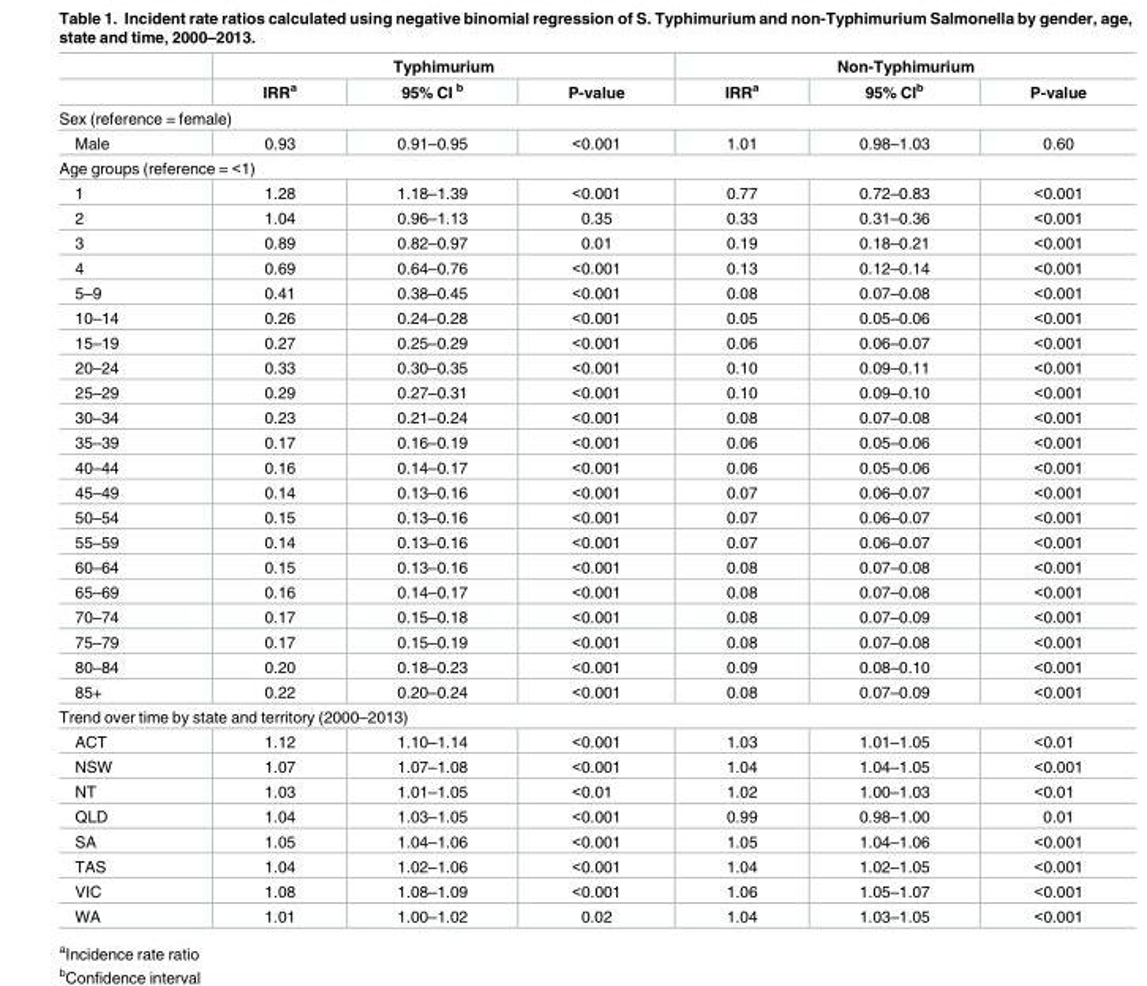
<table><thead><tr><td rowspan="2"></td><td colspan="3">Typhimurium</td><td colspan="3">Non-Typhimurium</td></tr><tr><td>IRR<sup>a</sup></td><td>95% CI <sup>b</sup></td><td>P-value</td><td>IRR<sup>a</sup></td><td>95% CI<sup>b</sup></td><td>P-value</td></tr></thead><tbody><tr><td colspan="7">Sex (reference = female)</td></tr><tr><td>Male</td><td>0.93</td><td>0.91–0.95</td><td>&lt;0.001</td><td>1.01</td><td>0.98–1.03</td><td>0.60</td></tr><tr><td colspan="7">Age groups (reference = &lt;1)</td></tr><tr><td>1</td><td>1.28</td><td>1.18–1.39</td><td>&lt;0.001</td><td>0.77</td><td>0.72–0.83</td><td>&lt;0.001</td></tr><tr><td>2</td><td>1.04</td><td>0.96–1.13</td><td>0.35</td><td>0.33</td><td>0.31–0.36</td><td>&lt;0.001</td></tr><tr><td>3</td><td>0.89</td><td>0.82–0.97</td><td>0.01</td><td>0.19</td><td>0.18–0.21</td><td>&lt;0.001</td></tr><tr><td>4</td><td>0.69</td><td>0.64–0.76</td><td>&lt;0.001</td><td>0.13</td><td>0.12–0.14</td><td>&lt;0.001</td></tr><tr><td>5–9</td><td>0.41</td><td>0.38–0.45</td><td>&lt;0.001</td><td>0.08</td><td>0.07–0.08</td><td>&lt;0.001</td></tr><tr><td>10–14</td><td>0.26</td><td>0.24–0.28</td><td>&lt;0.001</td><td>0.05</td><td>0.05–0.06</td><td>&lt;0.001</td></tr><tr><td>15–19</td><td>0.27</td><td>0.25–0.29</td><td>&lt;0.001</td><td>0.06</td><td>0.06–0.07</td><td>&lt;0.001</td></tr><tr><td>20–24</td><td>0.33</td><td>0.30–0.35</td><td>&lt;0.001</td><td>0.10</td><td>0.09–0.11</td><td>&lt;0.001</td></tr><tr><td>25–29</td><td>0.29</td><td>0.27–0.31</td><td>&lt;0.001</td><td>0.10</td><td>0.09–0.10</td><td>&lt;0.001</td></tr><tr><td>30–34</td><td>0.23</td><td>0.21–0.24</td><td>&lt;0.001</td><td>0.08</td><td>0.07–0.08</td><td>&lt;0.001</td></tr><tr><td>35–39</td><td>0.17</td><td>0.16–0.19</td><td>&lt;0.001</td><td>0.06</td><td>0.05–0.06</td><td>&lt;0.001</td></tr><tr><td>40–44</td><td>0.16</td><td>0.14–0.17</td><td>&lt;0.001</td><td>0.06</td><td>0.05–0.06</td><td>&lt;0.001</td></tr><tr><td>45–49</td><td>0.14</td><td>0.13–0.16</td><td>&lt;0.001</td><td>0.07</td><td>0.06–0.07</td><td>&lt;0.001</td></tr><tr><td>50–54</td><td>0.15</td><td>0.13–0.16</td><td>&lt;0.001</td><td>0.07</td><td>0.06–0.07</td><td>&lt;0.001</td></tr><tr><td>55–59</td><td>0.14</td><td>0.13–0.16</td><td>&lt;0.001</td><td>0.07</td><td>0.06–0.07</td><td>&lt;0.001</td></tr><tr><td>60–64</td><td>0.15</td><td>0.13–0.16</td><td>&lt;0.001</td><td>0.08</td><td>0.07–0.08</td><td>&lt;0.001</td></tr><tr><td>65–69</td><td>0.16</td><td>0.14–0.17</td><td>&lt;0.001</td><td>0.08</td><td>0.07–0.08</td><td>&lt;0.001</td></tr><tr><td>70–74</td><td>0.17</td><td>0.15–0.18</td><td>&lt;0.001</td><td>0.08</td><td>0.07–0.09</td><td>&lt;0.001</td></tr><tr><td>75–79</td><td>0.17</td><td>0.15–0.19</td><td>&lt;0.001</td><td>0.08</td><td>0.07–0.08</td><td>&lt;0.001</td></tr><tr><td>80–84</td><td>0.20</td><td>0.18–0.23</td><td>&lt;0.001</td><td>0.09</td><td>0.08–0.10</td><td>&lt;0.001</td></tr><tr><td>85+</td><td>0.22</td><td>0.20–0.24</td><td>&lt;0.001</td><td>0.08</td><td>0.07–0.09</td><td>&lt;0.001</td></tr><tr><td colspan="7">Trend over time by state and territory (2000–2013)</td></tr><tr><td>ACT</td><td>1.12</td><td>1.10–1.14</td><td>&lt;0.001</td><td>1.03</td><td>1.01–1.05</td><td>&lt;0.01</td></tr><tr><td>NSW</td><td>1.07</td><td>1.07–1.08</td><td>&lt;0.001</td><td>1.04</td><td>1.04–1.05</td><td>&lt;0.001</td></tr><tr><td>NT</td><td>1.03</td><td>1.01–1.05</td><td>&lt;0.01</td><td>1.02</td><td>1.00–1.03</td><td>&lt;0.01</td></tr><tr><td>QLD</td><td>1.04</td><td>1.03–1.05</td><td>&lt;0.001</td><td>0.99</td><td>0.98–1.00</td><td>0.01</td></tr><tr><td>SA</td><td>1.05</td><td>1.04–1.06</td><td>&lt;0.001</td><td>1.05</td><td>1.04–1.06</td><td>&lt;0.001</td></tr><tr><td>TAS</td><td>1.04</td><td>1.02–1.06</td><td>&lt;0.001</td><td>1.04</td><td>1.02–1.05</td><td>&lt;0.001</td></tr><tr><td>VIC</td><td>1.08</td><td>1.08–1.09</td><td>&lt;0.001</td><td>1.06</td><td>1.05–1.07</td><td>&lt;0.001</td></tr><tr><td>WA</td><td>1.01</td><td>1.00–1.02</td><td>0.02</td><td>1.04</td><td>1.03–1.05</td><td>&lt;0.001</td></tr></tbody></table>